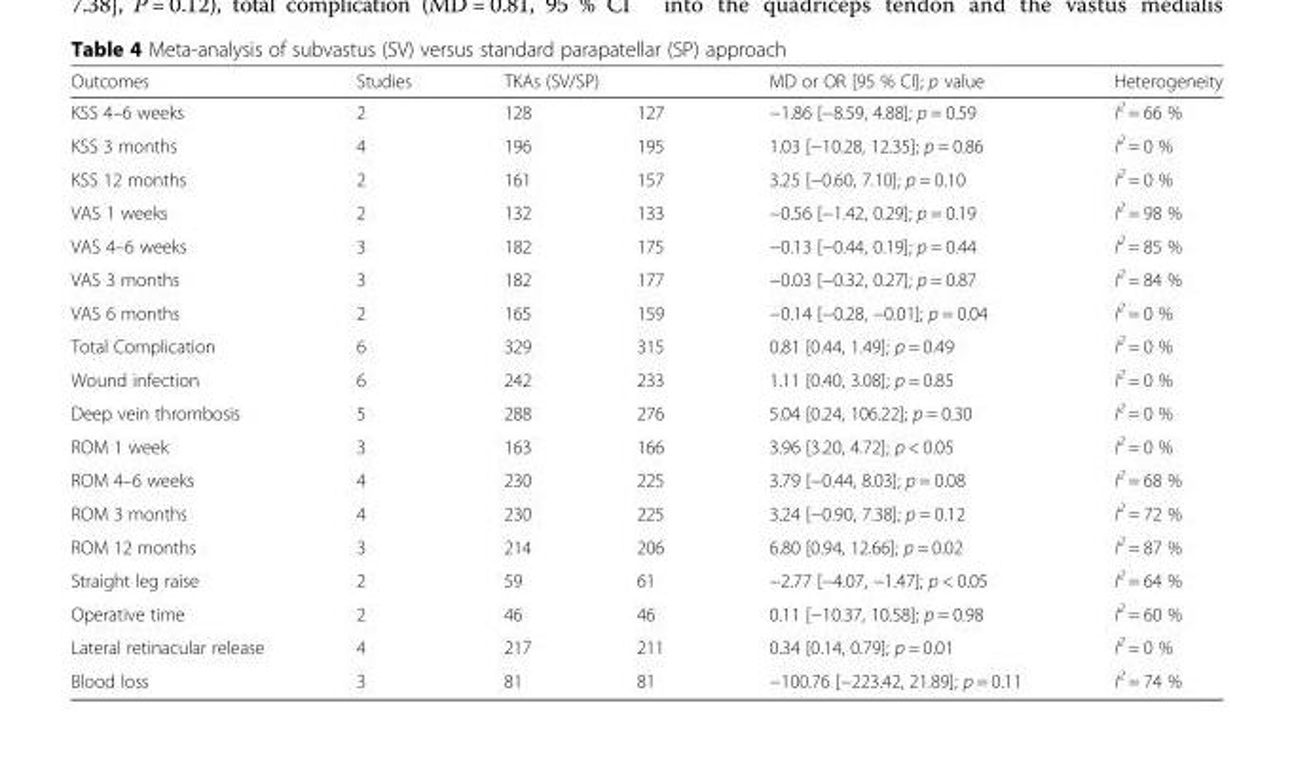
<table><thead><tr><td rowspan="2">Outcomes KSS 4–6 weeks</td><td rowspan="2">Studies 2</td><td colspan="2">TKAs (SV/SP)</td><td rowspan="2">MD or OR [95 % CI]; p value −1.86 [−8.59, 4.88]; p = 0.59</td><td rowspan="2">Heterogeneity I<sup>2</sup> = 66 %</td></tr><tr><td>128</td><td>127</td></tr></thead><tbody><tr><td>KSS 3 months</td><td>4</td><td>196</td><td>195</td><td>1.03 [−10.28, 12.35]; p = 0.86</td><td>I<sup>2</sup> = 0 %</td></tr><tr><td>KSS 12 months</td><td>2</td><td>161</td><td>157</td><td>3.25 [−0.60, 7.10]; p = 0.10</td><td>I<sup>2</sup> = 0 %</td></tr><tr><td>VAS 1 weeks</td><td>2</td><td>132</td><td>133</td><td>−0.56 [−1.42, 0.29]; p = 0.19</td><td>I<sup>2</sup> = 98 %</td></tr><tr><td>VAS 4–6 weeks</td><td>3</td><td>182</td><td>175</td><td>−0.13 [−0.44, 0.19]; p = 0.44</td><td>I<sup>2</sup> = 85 %</td></tr><tr><td>VAS 3 months</td><td>3</td><td>182</td><td>177</td><td>−0.03 [−0.32, 0.27]; p = 0.87</td><td>I<sup>2</sup> = 84 %</td></tr><tr><td>VAS 6 months</td><td>2</td><td>165</td><td>159</td><td>−0.14 [−0.28, −0.01]; p = 0.04</td><td>I<sup>2</sup> = 0 %</td></tr><tr><td>Total Complication</td><td>6</td><td>329</td><td>315</td><td>0.81 [0.44, 1.49]; p = 0.49</td><td>I<sup>2</sup> = 0 %</td></tr><tr><td>Wound infection</td><td>6</td><td>242</td><td>233</td><td>1.11 [0.40, 3.08]; p = 0.85</td><td>I<sup>2</sup> = 0 %</td></tr><tr><td>Deep vein thrombosis</td><td>5</td><td>288</td><td>276</td><td>5.04 [0.24, 106.22]; p = 0.30</td><td>I<sup>2</sup> = 0 %</td></tr><tr><td>ROM 1 week</td><td>3</td><td>163</td><td>166</td><td>3.96 [3.20, 4.72]; p &lt; 0.05</td><td>I<sup>2</sup> = 0 %</td></tr><tr><td>ROM 4–6 weeks</td><td>4</td><td>230</td><td>225</td><td>3.79 [−0.44, 8.03]; p = 0.08</td><td>I<sup>2</sup> = 68 %</td></tr><tr><td>ROM 3 months</td><td>4</td><td>230</td><td>225</td><td>3.24 [−0.90, 7.38]; p = 0.12</td><td>I<sup>2</sup> = 72 %</td></tr><tr><td>ROM 12 months</td><td>3</td><td>214</td><td>206</td><td>6.80 [0.94, 12.66]; p = 0.02</td><td>I<sup>2</sup> = 87 %</td></tr><tr><td>Straight leg raise</td><td>2</td><td>59</td><td>61</td><td>−2.77 [−4.07, −1.47]; p &lt; 0.05</td><td>I<sup>2</sup> = 64 %</td></tr><tr><td>Operative time</td><td>2</td><td>46</td><td>46</td><td>0.11 [−10.37, 10.58]; p = 0.98</td><td>I<sup>2</sup> = 60 %</td></tr><tr><td>Lateral retinacular release</td><td>4</td><td>217</td><td>211</td><td>0.34 [0.14, 0.79]; p = 0.01</td><td>I<sup>2</sup> = 0 %</td></tr><tr><td>Blood loss</td><td>3</td><td>81</td><td>81</td><td>−100.76 [−223.42, 21.89]; p = 0.11</td><td>I<sup>2</sup> = 74 %</td></tr></tbody></table>